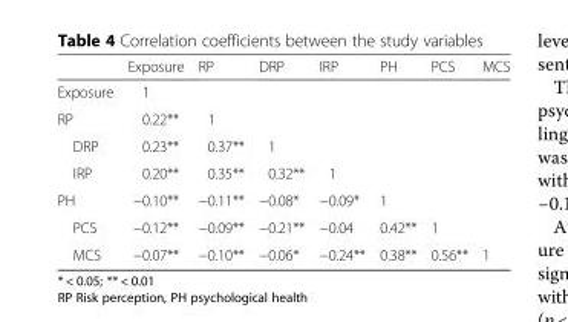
<table><thead><tr><td></td><td>Exposure</td><td>RP</td><td>DRP</td><td>IRP</td><td>PH</td><td>PCS</td><td>MCS</td></tr></thead><tbody><tr><td>Exposure</td><td>1</td><td></td><td></td><td></td><td></td><td></td><td></td></tr><tr><td>RP</td><td>0.22**</td><td>1</td><td></td><td></td><td></td><td></td><td></td></tr><tr><td>DRP</td><td>0.23**</td><td>0.37**</td><td>1</td><td></td><td></td><td></td><td></td></tr><tr><td>IRP</td><td>0.20**</td><td>0.35**</td><td>0.32**</td><td>1</td><td></td><td></td><td></td></tr><tr><td>PH</td><td>−0.10**</td><td>−0.11**</td><td>−0.08*</td><td>−0.09*</td><td>1</td><td></td><td></td></tr><tr><td>PCS</td><td>−0.12**</td><td>−0.09**</td><td>−0.21**</td><td>−0.04</td><td>0.42**</td><td>1</td><td></td></tr><tr><td>MCS</td><td>−0.07**</td><td>−0.10**</td><td>−0.06*</td><td>−0.24**</td><td>0.38**</td><td>0.56**</td><td>1</td></tr></tbody></table>